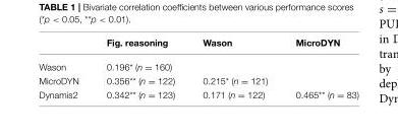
<table><thead><tr><td></td><td>Fig. reasoning</td><td>Wason</td><td>MicroDYN</td></tr></thead><tbody><tr><td>Wason</td><td>0.196* (n = 160)</td><td></td><td></td></tr><tr><td>MicroDYN</td><td>0.356** (n = 122)</td><td>0.215* (n = 121)</td><td></td></tr><tr><td>Dynamis2</td><td>0.342** (n = 123)</td><td>0.171 (n = 122)</td><td>0.465** (n = 83)</td></tr></tbody></table>